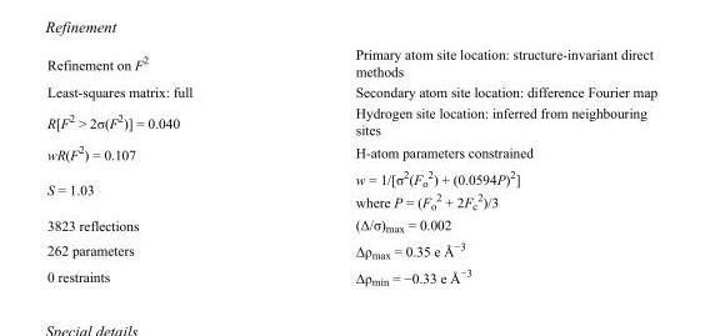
<table><tbody><tr><td>Refinement on F<sup>2</sup></td><td>Primary atom site location: structure-invariant direct methods</td></tr><tr><td>Least-squares matrix: full</td><td>Secondary atom site location: difference Fourier map</td></tr><tr><td>R[F<sup>2</sup> &gt; 2σ(F<sup>2</sup>)] = 0.040</td><td>Hydrogen site location: inferred from neighbouring sites</td></tr><tr><td>wR(F<sup>2</sup>) = 0.107</td><td>H-atom parameters constrained</td></tr><tr><td>S = 1.03</td><td>w = 1/[σ<sup>2</sup>(F<sub>o</sub> <sup>2</sup>) + (0.0594P)<sup>2</sup>] where P = (F<sub>o</sub> <sup>2</sup> + 2F<sub>c</sub> <sup>2</sup>)/3</td></tr><tr><td>3823 reflections</td><td>(Δ/σ)<sub>max</sub> = 0.002</td></tr><tr><td>262 parameters</td><td>Δρ<sub>max</sub> = 0.35 e Å<sup>−3</sup></td></tr><tr><td>0 restraints</td><td>Δρ<sub>min</sub> = −0.33 e Å<sup>−3</sup></td></tr></tbody></table>